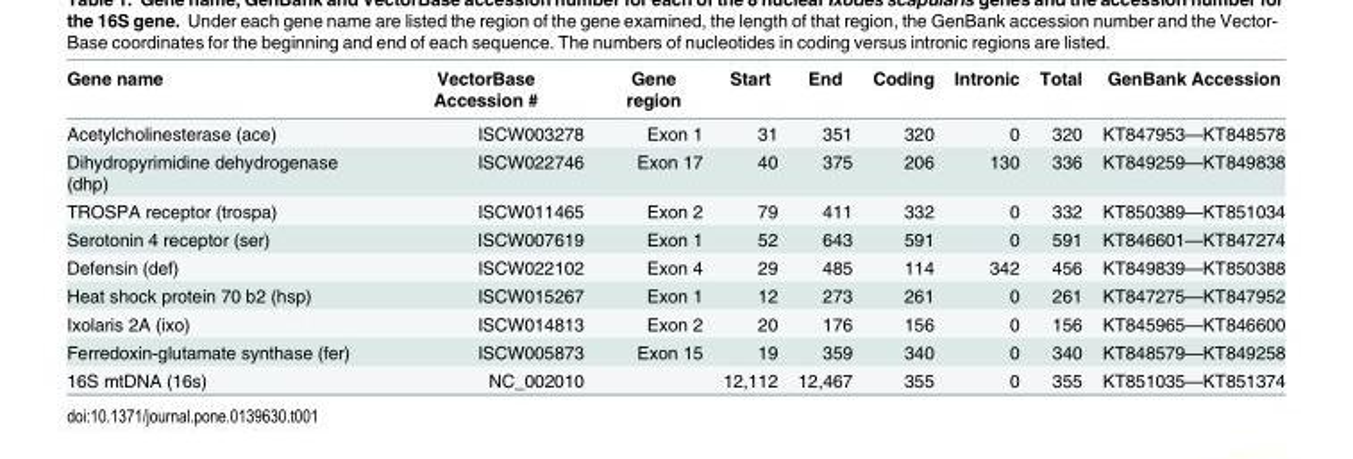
<table><thead><tr><td>Gene name</td><td>VectorBase Accession #</td><td>Gene region</td><td>Start</td><td>End</td><td>Coding</td><td>Intronic</td><td>Total</td><td>GenBank Accession</td></tr></thead><tbody><tr><td>Acetylcholinesterase (ace)</td><td>ISCW003278</td><td>Exon 1</td><td>31</td><td>351</td><td>320</td><td>0</td><td>320</td><td>KT847953—KT848578</td></tr><tr><td>Dihydropyrimidine dehydrogenase (dhp)</td><td>ISCW022746</td><td>Exon 17</td><td>40</td><td>375</td><td>206</td><td>130</td><td>336</td><td>KT849259—KT849838</td></tr><tr><td>TROSPA receptor (trospa)</td><td>ISCW011465</td><td>Exon 2</td><td>79</td><td>411</td><td>332</td><td>0</td><td>332</td><td>KT850389—KT851034</td></tr><tr><td>Serotonin 4 receptor (ser)</td><td>ISCW007619</td><td>Exon 1</td><td>52</td><td>643</td><td>591</td><td>0</td><td>591</td><td>KT846601—KT847274</td></tr><tr><td>Defensin (def)</td><td>ISCW022102</td><td>Exon 4</td><td>29</td><td>485</td><td>114</td><td>342</td><td>456</td><td>KT849839—KT850388</td></tr><tr><td>Heat shock protein 70 b2 (hsp)</td><td>ISCW015267</td><td>Exon 1</td><td>12</td><td>273</td><td>261</td><td>0</td><td>261</td><td>KT847275—KT847952</td></tr><tr><td>Ixolaris 2A (ixo)</td><td>ISCW014813</td><td>Exon 2</td><td>20</td><td>176</td><td>156</td><td>0</td><td>156</td><td>KT845965—KT846600</td></tr><tr><td>Ferredoxin-glutamate synthase (fer)</td><td>ISCW005873</td><td>Exon 15</td><td>19</td><td>359</td><td>340</td><td>0</td><td>340</td><td>KT848579—KT849258</td></tr><tr><td>16S mtDNA (16s)</td><td>NC_002010</td><td></td><td>12,112</td><td>12,467</td><td>355</td><td>0</td><td>355</td><td>KT851035—KT851374</td></tr></tbody></table>